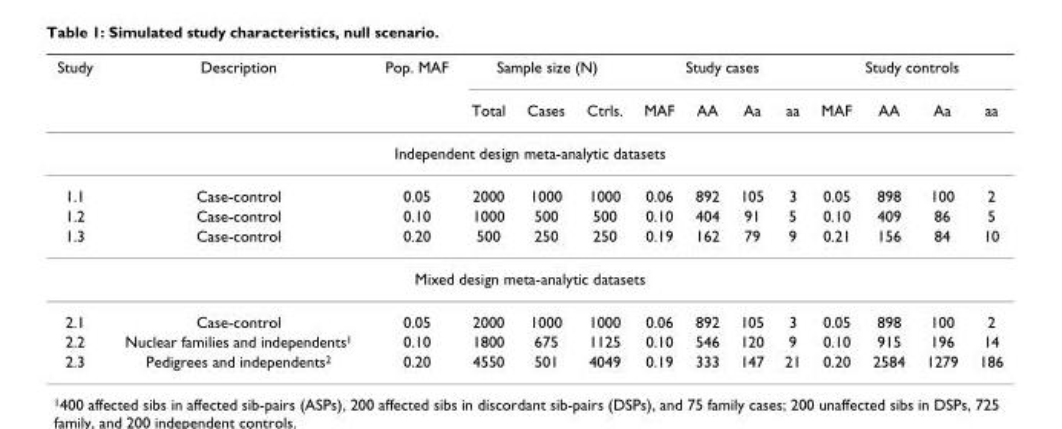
<table><thead><tr><td rowspan="2">Study</td><td rowspan="2">Description</td><td rowspan="2">Pop. MAF</td><td colspan="3">Sample size (N)</td><td colspan="4">Study cases</td><td colspan="4">Study controls</td></tr><tr><td>Total</td><td>Cases</td><td>Ctrls.</td><td>MAF</td><td>AA</td><td>Aa</td><td>aa</td><td>MAF</td><td>AA</td><td>Aa</td><td>aa</td></tr></thead><tbody><tr><td colspan="14">Independent design meta-analytic datasets</td></tr><tr><td>1.1</td><td>Case-control</td><td>0.05</td><td>2000</td><td>1000</td><td>1000</td><td>0.06</td><td>892</td><td>105</td><td>3</td><td>0.05</td><td>898</td><td>100</td><td>2</td></tr><tr><td>1.2</td><td>Case-control</td><td>0.10</td><td>1000</td><td>500</td><td>500</td><td>0.10</td><td>404</td><td>91</td><td>5</td><td>0.10</td><td>409</td><td>86</td><td>5</td></tr><tr><td>1.3</td><td>Case-control</td><td>0.20</td><td>500</td><td>250</td><td>250</td><td>0.19</td><td>162</td><td>79</td><td>9</td><td>0.21</td><td>156</td><td>84</td><td>10</td></tr><tr><td colspan="14">Mixed design meta-analytic datasets</td></tr><tr><td>2.1</td><td>Case-control</td><td>0.05</td><td>2000</td><td>1000</td><td>1000</td><td>0.06</td><td>892</td><td>105</td><td>3</td><td>0.05</td><td>898</td><td>100</td><td>2</td></tr><tr><td>2.2</td><td>Nuclear families and independents<sup>1</sup></td><td>0.10</td><td>1800</td><td>675</td><td>1125</td><td>0.10</td><td>546</td><td>120</td><td>9</td><td>0.10</td><td>915</td><td>196</td><td>14</td></tr><tr><td>2.3</td><td>Pedigrees and independents<sup>2</sup></td><td>0.20</td><td>4550</td><td>501</td><td>4049</td><td>0.19</td><td>333</td><td>147</td><td>21</td><td>0.20</td><td>2584</td><td>1279</td><td>186</td></tr></tbody></table>